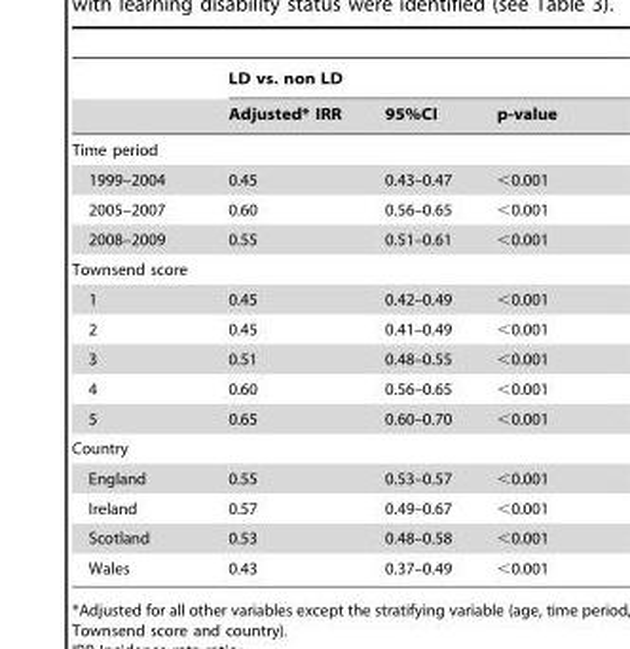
<table><thead><tr><td rowspan="2"></td><td colspan="3">LD vs. non LD</td></tr><tr><td>Adjusted* IRR</td><td>95%CI</td><td>p-value</td></tr></thead><tbody><tr><td colspan="4">Time period</td></tr><tr><td>1999–2004</td><td>0.45</td><td>0.43–0.47</td><td>&lt;0.001</td></tr><tr><td>2005–2007</td><td>0.60</td><td>0.56–0.65</td><td>&lt;0.001</td></tr><tr><td>2008–2009</td><td>0.55</td><td>0.51–0.61</td><td>&lt;0.001</td></tr><tr><td colspan="4">Townsend score</td></tr><tr><td>1</td><td>0.45</td><td>0.42–0.49</td><td>&lt;0.001</td></tr><tr><td>2</td><td>0.45</td><td>0.41–0.49</td><td>&lt;0.001</td></tr><tr><td>3</td><td>0.51</td><td>0.48–0.55</td><td>&lt;0.001</td></tr><tr><td>4</td><td>0.60</td><td>0.56–0.65</td><td>&lt;0.001</td></tr><tr><td>5</td><td>0.65</td><td>0.60–0.70</td><td>&lt;0.001</td></tr><tr><td colspan="4">Country</td></tr><tr><td>England</td><td>0.55</td><td>0.53–0.57</td><td>&lt;0.001</td></tr><tr><td>Ireland</td><td>0.57</td><td>0.49–0.67</td><td>&lt;0.001</td></tr><tr><td>Scotland</td><td>0.53</td><td>0.48–0.58</td><td>&lt;0.001</td></tr><tr><td>Wales</td><td>0.43</td><td>0.37–0.49</td><td>&lt;0.001</td></tr></tbody></table>